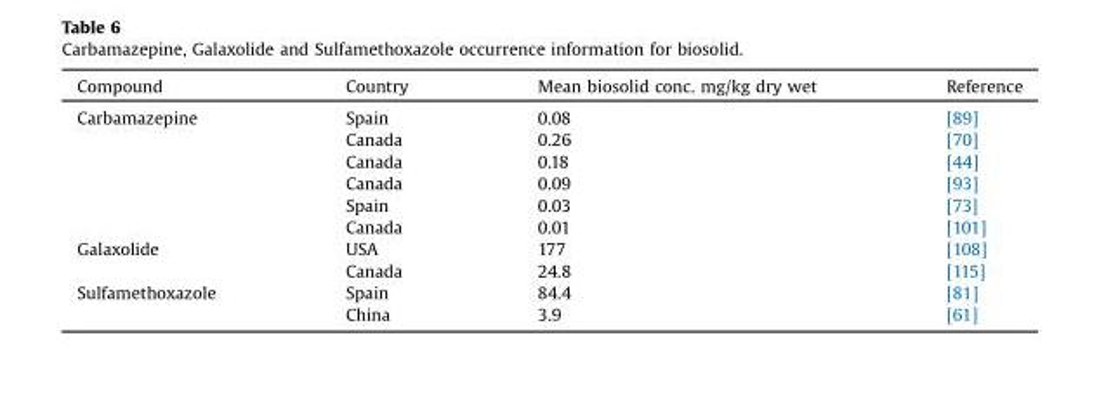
<table><thead><tr><td>Compound</td><td>Country</td><td>Mean biosolid conc. mg/kg dry wet</td><td>Reference</td></tr></thead><tbody><tr><td rowspan="6">Carbamazepine</td><td>Spain</td><td>0.08</td><td>[89]</td></tr><tr><td>Canada</td><td>0.26</td><td>[70]</td></tr><tr><td>Canada</td><td>0.18</td><td>[44]</td></tr><tr><td>Canada</td><td>0.09</td><td>[93]</td></tr><tr><td>Spain</td><td>0.03</td><td>[73]</td></tr><tr><td>Canada</td><td>0.01</td><td>[101]</td></tr><tr><td rowspan="2">Galaxolide</td><td>USA</td><td>177</td><td>[108]</td></tr><tr><td>Canada</td><td>24.8</td><td>[115]</td></tr><tr><td rowspan="2">Sulfamethoxazole</td><td>Spain</td><td>84.4</td><td>[81]</td></tr><tr><td>China</td><td>3.9</td><td>[61]</td></tr></tbody></table>